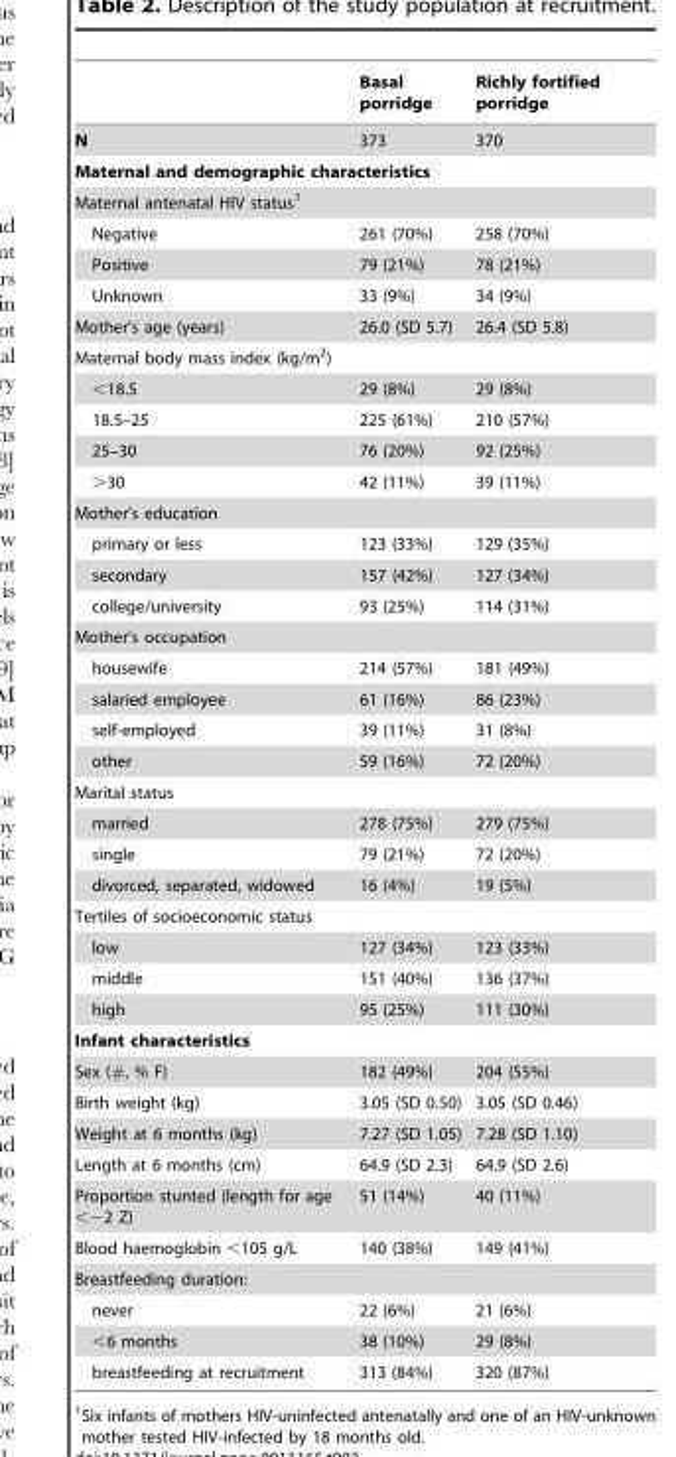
<table><thead><tr><td></td><td>Basal porridge</td><td>Richly fortified porridge</td></tr></thead><tbody><tr><td>N</td><td>373</td><td>370</td></tr><tr><td colspan="3">Maternal and demographic characteristics</td></tr><tr><td colspan="3">Maternal antenatal HIV status<sup>1</sup></td></tr><tr><td>Negative</td><td>261 (70%)</td><td>258 (70%)</td></tr><tr><td>Positive</td><td>79 (21%)</td><td>78 (21%)</td></tr><tr><td>Unknown</td><td>33 (9%)</td><td>34 (9%)</td></tr><tr><td>Mother’s age (years)</td><td>26.0 (SD 5.7)</td><td>26.4 (SD 5.8)</td></tr><tr><td colspan="3">Maternal body mass index (kg/m<sup>2</sup>)</td></tr><tr><td>&lt;18.5</td><td>29 (8%)</td><td>29 (8%)</td></tr><tr><td>18.5–25</td><td>225 (61%)</td><td>210 (57%)</td></tr><tr><td>25–30</td><td>76 (20%)</td><td>92 (25%)</td></tr><tr><td>&gt;30</td><td>42 (11%)</td><td>39 (11%)</td></tr><tr><td colspan="3">Mother’s education</td></tr><tr><td>primary or less</td><td>123 (33%)</td><td>129 (35%)</td></tr><tr><td>secondary</td><td>157 (42%)</td><td>127 (34%)</td></tr><tr><td>college/university</td><td>93 (25%)</td><td>114 (31%)</td></tr><tr><td colspan="3">Mother’s occupation</td></tr><tr><td>housewife</td><td>214 (57%)</td><td>181 (49%)</td></tr><tr><td>salaried employee</td><td>61 (16%)</td><td>86 (23%)</td></tr><tr><td>self-employed</td><td>39 (11%)</td><td>31 (8%)</td></tr><tr><td>other</td><td>59 (16%)</td><td>72 (20%)</td></tr><tr><td colspan="3">Marital status</td></tr><tr><td>married</td><td>278 (75%)</td><td>279 (75%)</td></tr><tr><td>single</td><td>79 (21%)</td><td>72 (20%)</td></tr><tr><td>divorced, separated, widowed</td><td>16 (4%)</td><td>19 (5%)</td></tr><tr><td colspan="3">Tertiles of socioeconomic status</td></tr><tr><td>low</td><td>127 (34%)</td><td>123 (33%)</td></tr><tr><td>middle</td><td>151 (40%)</td><td>136 (37%)</td></tr><tr><td>high</td><td>95 (25%)</td><td>111 (30%)</td></tr><tr><td colspan="3">Infant characteristics</td></tr><tr><td>Sex (#, % F)</td><td>182 (49%)</td><td>204 (55%)</td></tr><tr><td>Birth weight (kg)</td><td>3.05 (SD 0.50)</td><td>3.05 (SD 0.46)</td></tr><tr><td>Weight at 6 months (kg)</td><td>7.27 (SD 1.05)</td><td>7.28 (SD 1.10)</td></tr><tr><td>Length at 6 months (cm)</td><td>64.9 (SD 2.3)</td><td>64.9 (SD 2.6)</td></tr><tr><td>Proportion stunted (length for age &lt;−2 Z)</td><td>51 (14%)</td><td>40 (11%)</td></tr><tr><td>Blood haemoglobin &lt;105 g/L</td><td>140 (38%)</td><td>149 (41%)</td></tr><tr><td colspan="3">Breastfeeding duration:</td></tr><tr><td>never</td><td>22 (6%)</td><td>21 (6%)</td></tr><tr><td>&lt;6 months</td><td>38 (10%)</td><td>29 (8%)</td></tr><tr><td>breastfeeding at recruitment</td><td>313 (84%)</td><td>320 (87%)</td></tr></tbody></table>